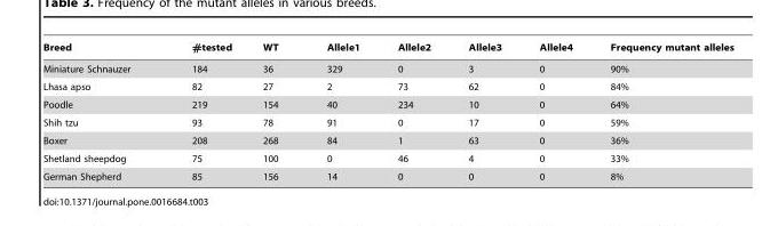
<table><thead><tr><td>Breed</td><td>#tested</td><td>WT</td><td>Allele1</td><td>Allele2</td><td>Allele3</td><td>Allele4</td><td>Frequency mutant alleles</td></tr></thead><tbody><tr><td>Miniature Schnauzer</td><td>184</td><td>36</td><td>329</td><td>0</td><td>3</td><td>0</td><td>90%</td></tr><tr><td>Lhasa apso</td><td>82</td><td>27</td><td>2</td><td>73</td><td>62</td><td>0</td><td>84%</td></tr><tr><td>Poodle</td><td>219</td><td>154</td><td>40</td><td>234</td><td>10</td><td>0</td><td>64%</td></tr><tr><td>Shih tzu</td><td>93</td><td>78</td><td>91</td><td>0</td><td>17</td><td>0</td><td>59%</td></tr><tr><td>Boxer</td><td>208</td><td>268</td><td>84</td><td>1</td><td>63</td><td>0</td><td>36%</td></tr><tr><td>Shetland sheepdog</td><td>75</td><td>100</td><td>0</td><td>46</td><td>4</td><td>0</td><td>33%</td></tr><tr><td>German Shepherd</td><td>85</td><td>156</td><td>14</td><td>0</td><td>0</td><td>0</td><td>8%</td></tr></tbody></table>